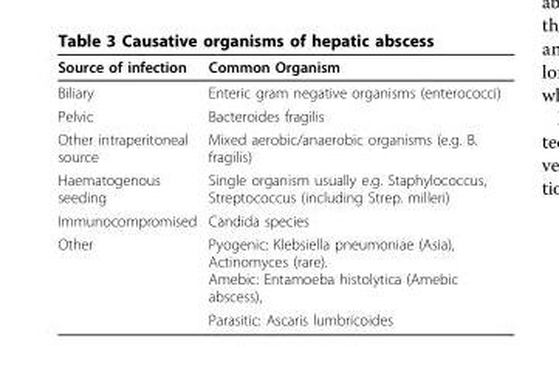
<table><thead><tr><td>Source of infection</td><td>Common Organism</td></tr></thead><tbody><tr><td>Biliary</td><td>Enteric gram negative organisms (enterococci)</td></tr><tr><td>Pelvic</td><td>Bacteroides fragilis</td></tr><tr><td>Other intraperitoneal source</td><td>Mixed aerobic/anaerobic organisms (e.g. B. fragilis)</td></tr><tr><td>Haematogenous seeding</td><td>Single organism usually e.g. Staphylococcus, Streptococcus (including Strep. milleri)</td></tr><tr><td>Immunocompromised</td><td>Candida species</td></tr><tr><td rowspan="2">Other</td><td>Pyogenic: Klebsiella pneumoniae (Asia), Actinomyces (rare). Amebic: Entamoeba histolytica (Amebic abscess),</td></tr><tr><td>Parasitic: Ascaris lumbricoides</td></tr></tbody></table>